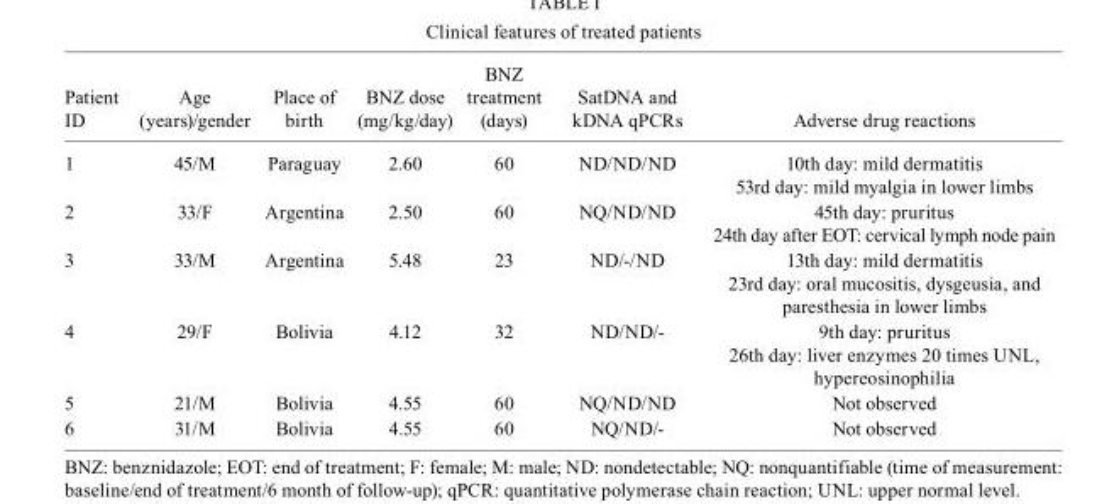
<table><thead><tr><td>Patient ID</td><td>Age (years)/gender</td><td>Place of birth</td><td>BNZ dose (mg/kg/day)</td><td>BNZ treatment (days)</td><td>SatDNA and kDNA qPCRs</td><td>Adverse drug reactions</td></tr></thead><tbody><tr><td>1</td><td>45/M</td><td>Paraguay</td><td>2.60</td><td>60</td><td>ND/ND/ND</td><td>10th day: mild dermatitis 53rd day: mild myalgia in lower limbs</td></tr><tr><td>2</td><td>33/F</td><td>Argentina</td><td>2.50</td><td>60</td><td>NQ/ND/ND</td><td>45th day: pruritus 24th day after EOT: cervical lymph node pain</td></tr><tr><td>3</td><td>33/M</td><td>Argentina</td><td>5.48</td><td>23</td><td>ND/-/ND</td><td>13th day: mild dermatitis 23rd day: oral mucositis, dysgeusia, and paresthesia in lower limbs</td></tr><tr><td>4</td><td>29/F</td><td>Bolivia</td><td>4.12</td><td>32</td><td>ND/ND/-</td><td>9th day: pruritus 26th day: liver enzymes 20 times UNL, hypereosinophilia</td></tr><tr><td>5</td><td>21/M</td><td>Bolivia</td><td>4.55</td><td>60</td><td>NQ/ND/ND</td><td>Not observed</td></tr><tr><td>6</td><td>31/M</td><td>Bolivia</td><td>4.55</td><td>60</td><td>NQ/ND/-</td><td>Not observed</td></tr></tbody></table>